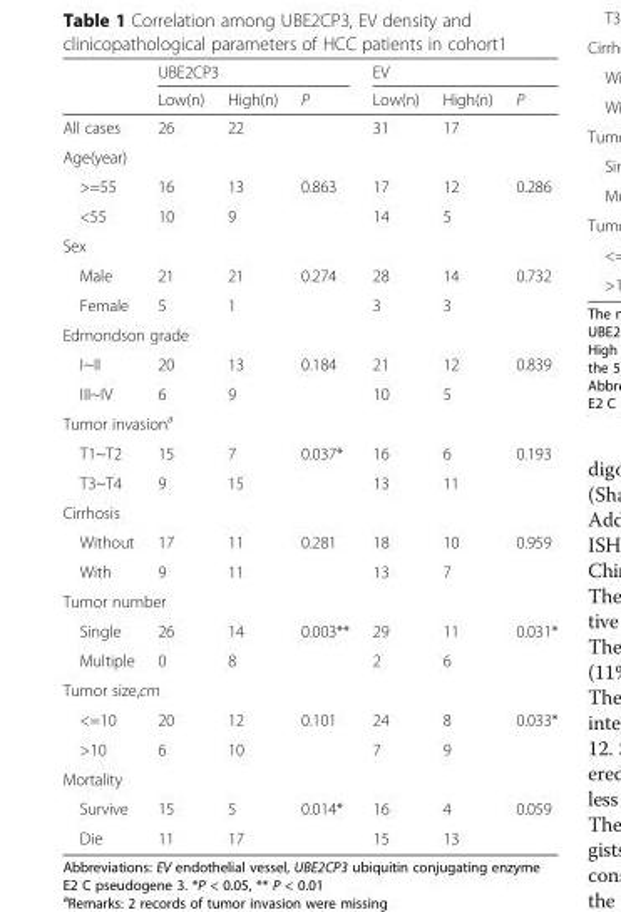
<table><thead><tr><td rowspan="2"></td><td colspan="3">UBE2CP3</td><td colspan="3">EV</td></tr><tr><td>Low(n)</td><td>High(n)</td><td>P</td><td>Low(n)</td><td>High(n)</td><td>P</td></tr></thead><tbody><tr><td>All cases</td><td>26</td><td>22</td><td></td><td>31</td><td>17</td><td></td></tr><tr><td colspan="7">Age(year)</td></tr><tr><td>&gt;=55</td><td>16</td><td>13</td><td>0.863</td><td>17</td><td>12</td><td>0.286</td></tr><tr><td>&lt;55</td><td>10</td><td>9</td><td></td><td>14</td><td>5</td><td></td></tr><tr><td colspan="7">Sex</td></tr><tr><td>Male</td><td>21</td><td>21</td><td>0.274</td><td>28</td><td>14</td><td>0.732</td></tr><tr><td>Female</td><td>5</td><td>1</td><td></td><td>3</td><td>3</td><td></td></tr><tr><td colspan="7">Edmondson grade</td></tr><tr><td>I~II</td><td>20</td><td>13</td><td>0.184</td><td>21</td><td>12</td><td>0.839</td></tr><tr><td>III~IV</td><td>6</td><td>9</td><td></td><td>10</td><td>5</td><td></td></tr><tr><td colspan="7">Tumor invasion<sup>a</sup></td></tr><tr><td>T1~T2</td><td>15</td><td>7</td><td>0.037*</td><td>16</td><td>6</td><td>0.193</td></tr><tr><td>T3~T4</td><td>9</td><td>15</td><td></td><td>13</td><td>11</td><td></td></tr><tr><td colspan="7">Cirrhosis</td></tr><tr><td>Without</td><td>17</td><td>11</td><td>0.281</td><td>18</td><td>10</td><td>0.959</td></tr><tr><td>With</td><td>9</td><td>11</td><td></td><td>13</td><td>7</td><td></td></tr><tr><td colspan="7">Tumor number</td></tr><tr><td>Single</td><td>26</td><td>14</td><td>0.003**</td><td>29</td><td>11</td><td>0.031*</td></tr><tr><td>Multiple</td><td>0</td><td>8</td><td></td><td>2</td><td>6</td><td></td></tr><tr><td colspan="7">Tumor size,cm</td></tr><tr><td>&lt;=10</td><td>20</td><td>12</td><td>0.101</td><td>24</td><td>8</td><td>0.033*</td></tr><tr><td>&gt;10</td><td>6</td><td>10</td><td></td><td>7</td><td>9</td><td></td></tr><tr><td colspan="7">Mortality</td></tr><tr><td>Survive</td><td>15</td><td>5</td><td>0.014*</td><td>16</td><td>4</td><td>0.059</td></tr><tr><td>Die</td><td>11</td><td>17</td><td></td><td>15</td><td>13</td><td></td></tr></tbody></table>